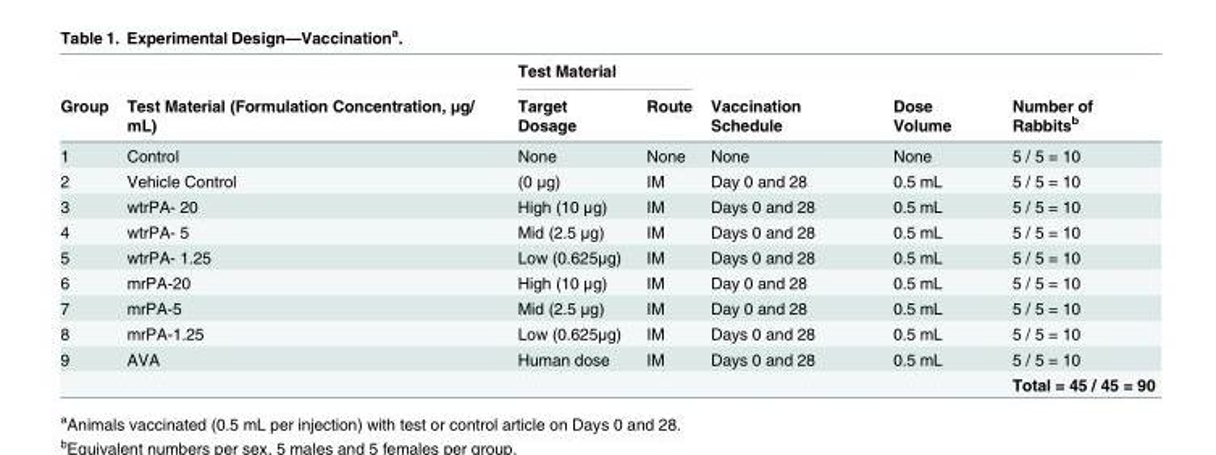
<table><thead><tr><td rowspan="2">Group</td><td rowspan="2">Test Material (Formulation Concentration, μg/ mL)</td><td colspan="2">Test Material</td><td rowspan="2">Vaccination Schedule</td><td rowspan="2">Dose Volume</td><td rowspan="2">Number of Rabbits<sup>b</sup></td></tr><tr><td>Target Dosage</td><td>Route</td></tr></thead><tbody><tr><td>1</td><td>Control</td><td>None</td><td>None</td><td>None</td><td>None</td><td>5 / 5 = 10</td></tr><tr><td>2</td><td>Vehicle Control</td><td>(0 μg)</td><td>IM</td><td>Day 0 and 28</td><td>0.5 mL</td><td>5 / 5 = 10</td></tr><tr><td>3</td><td>wtrPA- 20</td><td>High (10 μg)</td><td>IM</td><td>Days 0 and 28</td><td>0.5 mL</td><td>5 / 5 = 10</td></tr><tr><td>4</td><td>wtrPA- 5</td><td>Mid (2.5 μg)</td><td>IM</td><td>Days 0 and 28</td><td>0.5 mL</td><td>5 / 5 = 10</td></tr><tr><td>5</td><td>wtrPA- 1.25</td><td>Low (0.625μg)</td><td>IM</td><td>Days 0 and 28</td><td>0.5 mL</td><td>5 / 5 = 10</td></tr><tr><td>6</td><td>mrPA-20</td><td>High (10 μg)</td><td>IM</td><td>Day 0 and 28</td><td>0.5 mL</td><td>5 / 5 = 10</td></tr><tr><td>7</td><td>mrPA-5</td><td>Mid (2.5 μg)</td><td>IM</td><td>Day 0 and 28</td><td>0.5 mL</td><td>5 / 5 = 10</td></tr><tr><td>8</td><td>mrPA-1.25</td><td>Low (0.625μg)</td><td>IM</td><td>Days 0 and 28</td><td>0.5 mL</td><td>5 / 5 = 10</td></tr><tr><td rowspan="2">9</td><td>AVA</td><td>Human dose</td><td>IM</td><td>Days 0 and 28</td><td>0.5 mL</td><td>5 / 5 = 10</td></tr><tr><td></td><td></td><td></td><td></td><td></td><td>Total = 45 / 45 = 90</td></tr></tbody></table>